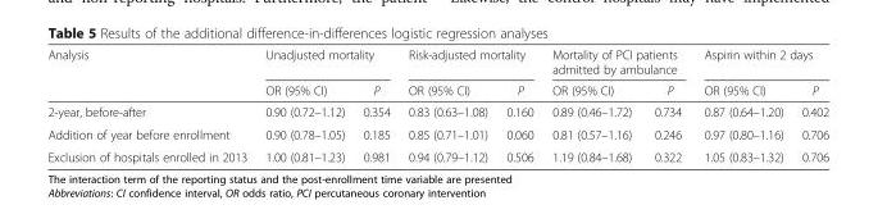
<table><thead><tr><td rowspan="2">Analysis</td><td colspan="2">Unadjusted mortality</td><td colspan="2">Risk-adjusted mortality</td><td colspan="2">Mortality of PCI patients admitted by ambulance</td><td colspan="2">Aspirin within 2 days</td></tr><tr><td>OR (95% CI)</td><td>P</td><td>OR (95% CI)</td><td>P</td><td>OR (95% CI)</td><td>P</td><td>OR (95% CI)</td><td>P</td></tr></thead><tbody><tr><td>2-year, before-after</td><td>0.90 (0.72–1.12)</td><td>0.354</td><td>0.83 (0.63–1.08)</td><td>0.160</td><td>0.89 (0.46–1.72)</td><td>0.734</td><td>0.87 (0.64–1.20)</td><td>0.402</td></tr><tr><td>Addition of year before enrollment</td><td>0.90 (0.78–1.05)</td><td>0.185</td><td>0.85 (0.71–1.01)</td><td>0.060</td><td>0.81 (0.57–1.16)</td><td>0.246</td><td>0.97 (0.80–1.16)</td><td>0.706</td></tr><tr><td>Exclusion of hospitals enrolled in 2013</td><td>1.00 (0.81–1.23)</td><td>0.981</td><td>0.94 (0.79–1.12)</td><td>0.506</td><td>1.19 (0.84–1.68)</td><td>0.322</td><td>1.05 (0.83–1.32)</td><td>0.706</td></tr></tbody></table>